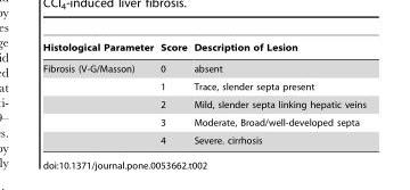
<table><thead><tr><td>Histological Parameter</td><td>Score</td><td>Description of Lesion</td></tr></thead><tbody><tr><td rowspan="5">Fibrosis (V-G/Masson)</td><td>0</td><td>absent</td></tr><tr><td>1</td><td>Trace, slender septa present</td></tr><tr><td>2</td><td>Mild, slender septa linking hepatic veins</td></tr><tr><td>3</td><td>Moderate, Broad/well-developed septa</td></tr><tr><td>4</td><td>Severe. cirrhosis</td></tr></tbody></table>